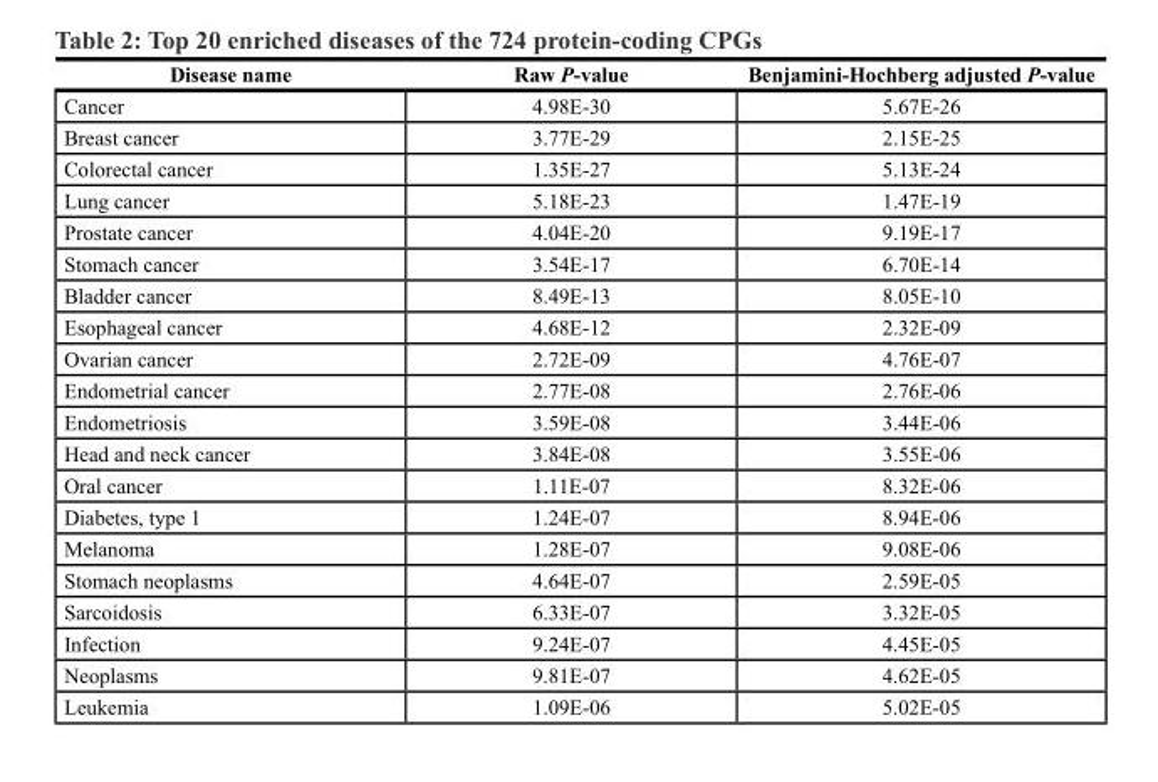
<table><thead><tr><td>Disease name</td><td>raw P-value</td><td>benjamini-Hochberg adjusted P-value</td></tr></thead><tbody><tr><td>Cancer</td><td>4.98E-30</td><td>5.67E-26</td></tr><tr><td>Breast cancer</td><td>3.77E-29</td><td>2.15E-25</td></tr><tr><td>Colorectal cancer</td><td>1.35E-27</td><td>5.13E-24</td></tr><tr><td>Lung cancer</td><td>5.18E-23</td><td>1.47E-19</td></tr><tr><td>Prostate cancer</td><td>4.04E-20</td><td>9.19E-17</td></tr><tr><td>Stomach cancer</td><td>3.54E-17</td><td>6.70E-14</td></tr><tr><td>Bladder cancer</td><td>8.49E-13</td><td>8.05E-10</td></tr><tr><td>Esophageal cancer</td><td>4.68E-12</td><td>2.32E-09</td></tr><tr><td>Ovarian cancer</td><td>2.72E-09</td><td>4.76E-07</td></tr><tr><td>Endometrial cancer</td><td>2.77E-08</td><td>2.76E-06</td></tr><tr><td>Endometriosis</td><td>3.59E-08</td><td>3.44E-06</td></tr><tr><td>Head and neck cancer</td><td>3.84E-08</td><td>3.55E-06</td></tr><tr><td>Oral cancer</td><td>1.11E-07</td><td>8.32E-06</td></tr><tr><td>Diabetes, type 1</td><td>1.24E-07</td><td>8.94E-06</td></tr><tr><td>Melanoma</td><td>1.28E-07</td><td>9.08E-06</td></tr><tr><td>Stomach neoplasms</td><td>4.64E-07</td><td>2.59E-05</td></tr><tr><td>Sarcoidosis</td><td>6.33E-07</td><td>3.32E-05</td></tr><tr><td>Infection</td><td>9.24E-07</td><td>4.45E-05</td></tr><tr><td>Neoplasms</td><td>9.81E-07</td><td>4.62E-05</td></tr><tr><td>Leukemia</td><td>1.09E-06</td><td>5.02E-05</td></tr></tbody></table>